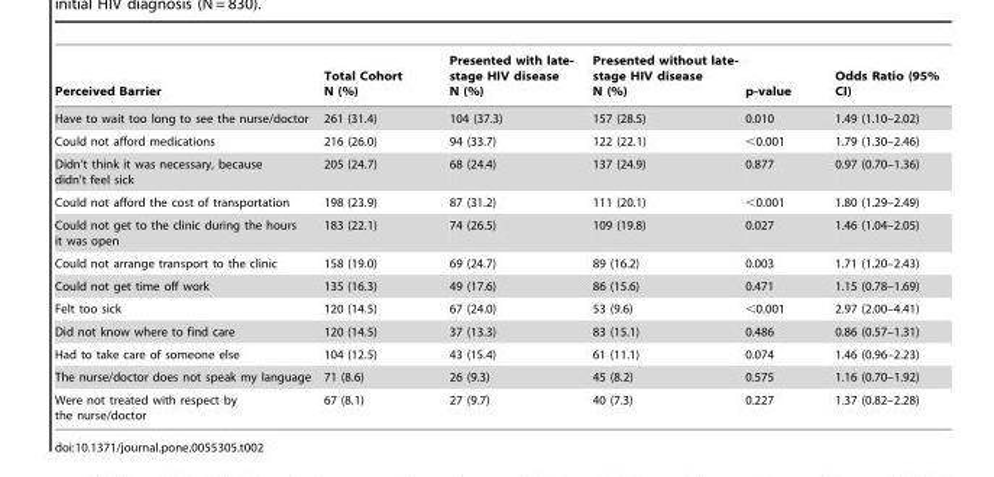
<table><thead><tr><td>Perceived Barrier</td><td>Total Cohort N (%)</td><td>Presented with late- stage HIV disease N (%)</td><td>Presented without late- stage HIV disease N (%)</td><td>p-value</td><td>Odds Ratio (95% CI)</td></tr></thead><tbody><tr><td>Have to wait too long to see the nurse/doctor</td><td>261 (31.4)</td><td>104 (37.3)</td><td>157 (28.5)</td><td>0.010</td><td>1.49 (1.10–2.02)</td></tr><tr><td>Could not afford medications</td><td>216 (26.0)</td><td>94 (33.7)</td><td>122 (22.1)</td><td>&lt;0.001</td><td>1.79 (1.30–2.46)</td></tr><tr><td>Didn’t think it was necessary, because didn’t feel sick</td><td>205 (24.7)</td><td>68 (24.4)</td><td>137 (24.9)</td><td>0.877</td><td>0.97 (0.70–1.36)</td></tr><tr><td>Could not afford the cost of transportation</td><td>198 (23.9)</td><td>87 (31.2)</td><td>111 (20.1)</td><td>&lt;0.001</td><td>1.80 (1.29–2.49)</td></tr><tr><td>Could not get to the clinic during the hours it was open</td><td>183 (22.1)</td><td>74 (26.5)</td><td>109 (19.8)</td><td>0.027</td><td>1.46 (1.04–2.05)</td></tr><tr><td>Could not arrange transport to the clinic</td><td>158 (19.0)</td><td>69 (24.7)</td><td>89 (16.2)</td><td>0.003</td><td>1.71 (1.20–2.43)</td></tr><tr><td>Could not get time off work</td><td>135 (16.3)</td><td>49 (17.6)</td><td>86 (15.6)</td><td>0.471</td><td>1.15 (0.78–1.69)</td></tr><tr><td>Felt too sick</td><td>120 (14.5)</td><td>67 (24.0)</td><td>53 (9.6)</td><td>&lt;0.001</td><td>2.97 (2.00–4.41)</td></tr><tr><td>Did not know where to find care</td><td>120 (14.5)</td><td>37 (13.3)</td><td>83 (15.1)</td><td>0.486</td><td>0.86 (0.57–1.31)</td></tr><tr><td>Had to take care of someone else</td><td>104 (12.5)</td><td>43 (15.4)</td><td>61 (11.1)</td><td>0.074</td><td>1.46 (0.96–2.23)</td></tr><tr><td>The nurse/doctor does not speak my language</td><td>71 (8.6)</td><td>26 (9.3)</td><td>45 (8.2)</td><td>0.575</td><td>1.16 (0.70–1.92)</td></tr><tr><td>Were not treated with respect by the nurse/doctor</td><td>67 (8.1)</td><td>27 (9.7)</td><td>40 (7.3)</td><td>0.227</td><td>1.37 (0.82–2.28)</td></tr></tbody></table>